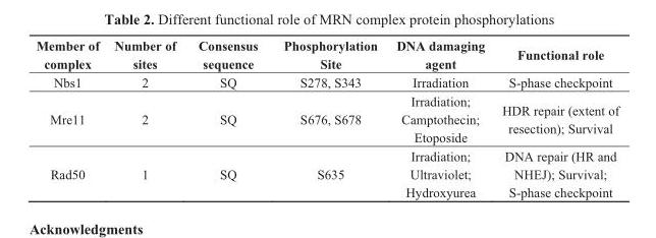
<table><thead><tr><td>Member of complex</td><td>Number of sites</td><td>Consensus sequence</td><td>Phosphorylation Site</td><td>DNA damaging agent</td><td>Functional role</td></tr></thead><tbody><tr><td>Nbs1</td><td>2</td><td>SQ</td><td>S278, S343</td><td>Irradiation</td><td>S-phase checkpoint</td></tr><tr><td>Mre11</td><td>2</td><td>SQ</td><td>S676, S678</td><td>Irradiation; Camptothecin; Etoposide</td><td>HDR repair (extent of resection); Survival</td></tr><tr><td>Rad50</td><td>1</td><td>SQ</td><td>S635</td><td>Irradiation; Ultraviolet; Hydroxyurea</td><td>DNA repair (HR and NHEJ); Survival; S-phase checkpoint</td></tr></tbody></table>